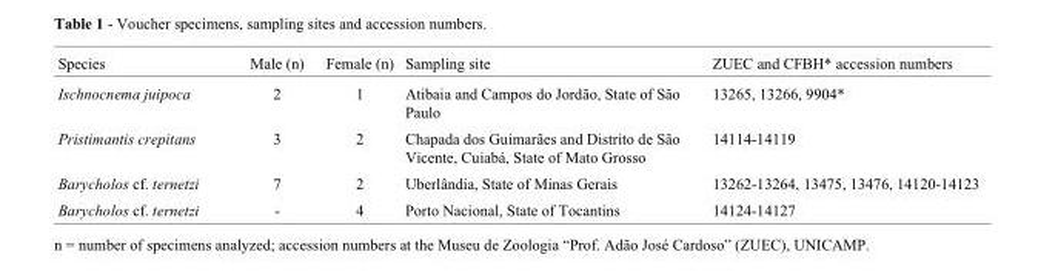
<table><thead><tr><td>Species</td><td>Male (n)</td><td>Female (n)</td><td>Sampling site</td><td>ZUEC and CFBH* accession numbers</td></tr></thead><tbody><tr><td>Ischnocnema juipoca</td><td>2</td><td>1</td><td>Atibaia and Campos do Jordão, State of São Paulo</td><td>13265, 13266, 9904*</td></tr><tr><td>Pristimantis crepitans</td><td>3</td><td>2</td><td>Chapada dos Guimarães and Distrito de São Vicente, Cuiabá, State of Mato Grosso</td><td>14114-14119</td></tr><tr><td>Barycholos cf. ternetzi</td><td>7</td><td>2</td><td>Uberlândia, State of Minas Gerais</td><td>13262-13264, 13475, 13476, 14120-14123</td></tr><tr><td>Barycholos cf. ternetzi</td><td>-</td><td>4</td><td>Porto Nacional, State of Tocantins</td><td>14124-14127</td></tr></tbody></table>